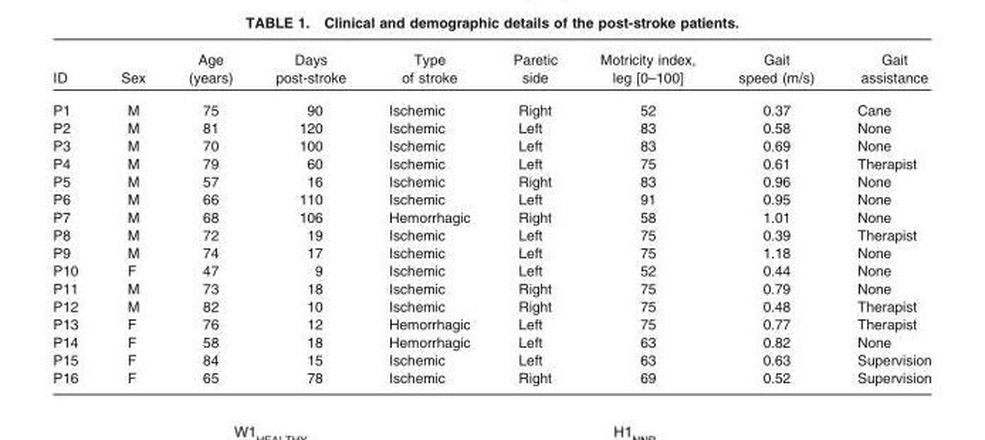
<table><thead><tr><td>ID</td><td>Sex</td><td>Age (years)</td><td>Days post-stroke</td><td>Type of stroke</td><td>Paretic side</td><td>Motricity index, leg [0–100]</td><td>Gait speed (m/s)</td><td>Gait assistance</td></tr></thead><tbody><tr><td>P1</td><td>M</td><td>75</td><td>90</td><td>Ischemic</td><td>Right</td><td>52</td><td>0.37</td><td>Cane</td></tr><tr><td>P2</td><td>M</td><td>81</td><td>120</td><td>Ischemic</td><td>Left</td><td>83</td><td>0.58</td><td>None</td></tr><tr><td>P3</td><td>M</td><td>70</td><td>100</td><td>Ischemic</td><td>Left</td><td>83</td><td>0.69</td><td>None</td></tr><tr><td>P4</td><td>M</td><td>79</td><td>60</td><td>Ischemic</td><td>Left</td><td>75</td><td>0.61</td><td>Therapist</td></tr><tr><td>P5</td><td>M</td><td>57</td><td>16</td><td>Ischemic</td><td>Right</td><td>83</td><td>0.96</td><td>None</td></tr><tr><td>P6</td><td>M</td><td>66</td><td>110</td><td>Ischemic</td><td>Left</td><td>91</td><td>0.95</td><td>None</td></tr><tr><td>P7</td><td>M</td><td>68</td><td>106</td><td>Hemorrhagic</td><td>Right</td><td>58</td><td>1.01</td><td>None</td></tr><tr><td>P8</td><td>M</td><td>72</td><td>19</td><td>Ischemic</td><td>Left</td><td>75</td><td>0.39</td><td>Therapist</td></tr><tr><td>P9</td><td>M</td><td>74</td><td>17</td><td>Ischemic</td><td>Left</td><td>75</td><td>1.18</td><td>None</td></tr><tr><td>P10</td><td>F</td><td>47</td><td>9</td><td>Ischemic</td><td>Left</td><td>52</td><td>0.44</td><td>None</td></tr><tr><td>P11</td><td>M</td><td>73</td><td>18</td><td>Ischemic</td><td>Right</td><td>75</td><td>0.79</td><td>None</td></tr><tr><td>P12</td><td>M</td><td>82</td><td>10</td><td>Ischemic</td><td>Right</td><td>75</td><td>0.48</td><td>Therapist</td></tr><tr><td>P13</td><td>F</td><td>76</td><td>12</td><td>Hemorrhagic</td><td>Left</td><td>75</td><td>0.77</td><td>Therapist</td></tr><tr><td>P14</td><td>F</td><td>58</td><td>18</td><td>Hemorrhagic</td><td>Left</td><td>63</td><td>0.82</td><td>None</td></tr><tr><td>P15</td><td>F</td><td>84</td><td>15</td><td>Ischemic</td><td>Left</td><td>63</td><td>0.63</td><td>Supervision</td></tr><tr><td>P16</td><td>F</td><td>65</td><td>78</td><td>Ischemic</td><td>Right</td><td>69</td><td>0.52</td><td>Supervision</td></tr></tbody></table>